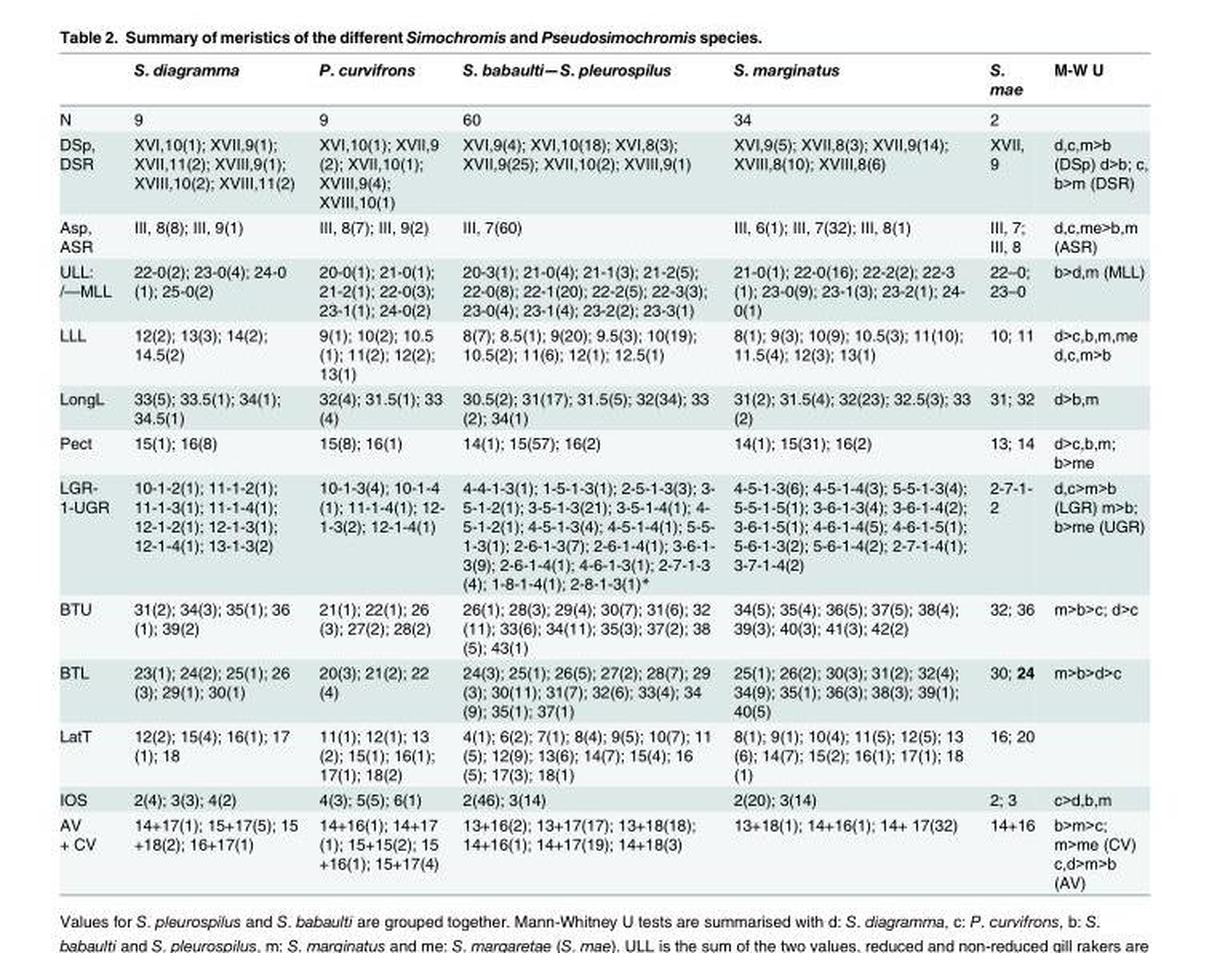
<table><thead><tr><td></td><td>S. diagramma</td><td>P. curvifrons</td><td>S. babaulti—S. pleurospilus</td><td>S. marginatus</td><td>S. mae</td><td>M-W U</td></tr></thead><tbody><tr><td>N</td><td>9</td><td>9</td><td>60</td><td>34</td><td>2</td><td></td></tr><tr><td>DSp, DSR</td><td>XVI,10(1); XVII,9(1); XVII,11(2); XVIII,9(1); XVIII,10(2); XVIII,11(2)</td><td>XVI,10(1); XVII,9 (2); XVII,10(1); XVIII,9(4); XVIII,10(1)</td><td>XVI,9(4); XVI,10(18); XVI,8(3); XVII,9(25); XVII,10(2); XVIII,9(1)</td><td>XVI,9(5); XVII,8(3); XVII,9(14); XVIII,8(10); XVIII,8(6)</td><td>XVII, 9</td><td>d,c,m&gt;b (DSp) d&gt;b; c, b&gt;m (DSR)</td></tr><tr><td>Asp, ASR</td><td>III, 8(8); III, 9(1)</td><td>III, 8(7); III, 9(2)</td><td>III, 7(60)</td><td>III, 6(1); III, 7(32); III, 8(1)</td><td>III, 7; III, 8</td><td>d,c,me&gt;b,m (ASR)</td></tr><tr><td>ULL: /—MLL</td><td>22-0(2); 23-0(4); 24-0 (1); 25-0(2)</td><td>20-0(1); 21-0(1); 21-2(1); 22-0(3); 23-1(1); 24-0(2)</td><td>20-3(1); 21-0(4); 21-1(3); 21-2(5); 22-0(8); 22-1(20); 22-2(5); 22-3(3); 23-0(4); 23-1(4); 23-2(2); 23-3(1)</td><td>21-0(1); 22-0(16); 22-2(2); 22-3 (1); 23-0(9); 23-1(3); 23-2(1); 24- 0(1)</td><td>22–0; 23–0</td><td>b&gt;d,m (MLL)</td></tr><tr><td>LLL</td><td>12(2); 13(3); 14(2); 14.5(2)</td><td>9(1); 10(2); 10.5 (1); 11(2); 12(2); 13(1)</td><td>8(7); 8.5(1); 9(20); 9.5(3); 10(19); 10.5(2); 11(6); 12(1); 12.5(1)</td><td>8(1); 9(3); 10(9); 10.5(3); 11(10); 11.5(4); 12(3); 13(1)</td><td>10; 11</td><td>d&gt;c,b,m,me d,c,m&gt;b</td></tr><tr><td>LongL</td><td>33(5); 33.5(1); 34(1); 34.5(1)</td><td>32(4); 31.5(1); 33 (4)</td><td>30.5(2); 31(17); 31.5(5); 32(34); 33 (2); 34(1)</td><td>31(2); 31.5(4); 32(23); 32.5(3); 33 (2)</td><td>31; 32</td><td>d&gt;b,m</td></tr><tr><td>Pect</td><td>15(1); 16(8)</td><td>15(8); 16(1)</td><td>14(1); 15(57); 16(2)</td><td>14(1); 15(31); 16(2)</td><td>13; 14</td><td>d&gt;c,b,m; b&gt;me</td></tr><tr><td>LGR- 1-UGR</td><td>10-1-2(1); 11-1-2(1); 11-1-3(1); 11-1-4(1); 12-1-2(1); 12-1-3(1); 12-1-4(1); 13-1-3(2)</td><td>10-1-3(4); 10-1-4 (1); 11-1-4(1); 12- 1-3(2); 12-1-4(1)</td><td>4-4-1-3(1); 1-5-1-3(1); 2-5-1-3(3); 3- 5-1-2(1); 3-5-1-3(21); 3-5-1-4(1); 4- 5-1-2(1); 4-5-1-3(4); 4-5-1-4(1); 5-5- 1-3(1); 2-6-1-3(7); 2-6-1-4(1); 3-6-1- 3(9); 2-6-1-4(1); 4-6-1-3(1); 2-7-1-3 (4); 1-8-1-4(1); 2-8-1-3(1)*</td><td>4-5-1-3(6); 4-5-1-4(3); 5-5-1-3(4); 5-5-1-5(1); 3-6-1-3(4); 3-6-1-4(2); 3-6-1-5(1); 4-6-1-4(5); 4-6-1-5(1); 5-6-1-3(2); 5-6-1-4(2); 2-7-1-4(1); 3-7-1-4(2)</td><td>2-7-1- 2</td><td>d,c&gt;m&gt;b (LGR) m&gt;b; b&gt;me (UGR)</td></tr><tr><td>BTU</td><td>31(2); 34(3); 35(1); 36 (1); 39(2)</td><td>21(1); 22(1); 26 (3); 27(2); 28(2)</td><td>26(1); 28(3); 29(4); 30(7); 31(6); 32 (11); 33(6); 34(11); 35(3); 37(2); 38 (5); 43(1)</td><td>34(5); 35(4); 36(5); 37(5); 38(4); 39(3); 40(3); 41(3); 42(2)</td><td>32; 36</td><td>m&gt;b&gt;c; d&gt;c</td></tr><tr><td>BTL</td><td>23(1); 24(2); 25(1); 26 (3); 29(1); 30(1)</td><td>20(3); 21(2); 22 (4)</td><td>24(3); 25(1); 26(5); 27(2); 28(7); 29 (3); 30(11); 31(7); 32(6); 33(4); 34 (9); 35(1); 37(1)</td><td>25(1); 26(2); 30(3); 31(2); 32(4); 34(9); 35(1); 36(3); 38(3); 39(1); 40(5)</td><td>30; 24</td><td>m&gt;b&gt;d&gt;c</td></tr><tr><td>LatT</td><td>12(2); 15(4); 16(1); 17 (1); 18</td><td>11(1); 12(1); 13 (2); 15(1); 16(1); 17(1); 18(2)</td><td>4(1); 6(2); 7(1); 8(4); 9(5); 10(7); 11 (5); 12(9); 13(6); 14(7); 15(4); 16 (5); 17(3); 18(1)</td><td>8(1); 9(1); 10(4); 11(5); 12(5); 13 (6); 14(7); 15(2); 16(1); 17(1); 18 (1)</td><td>16; 20</td><td></td></tr><tr><td>IOS</td><td>2(4); 3(3); 4(2)</td><td>4(3); 5(5); 6(1)</td><td>2(46); 3(14)</td><td>2(20); 3(14)</td><td>2; 3</td><td>c&gt;d,b,m</td></tr><tr><td>AV + CV</td><td>14+17(1); 15+17(5); 15 +18(2); 16+17(1)</td><td>14+16(1); 14+17 (1); 15+15(2); 15 +16(1); 15+17(4)</td><td>13+16(2); 13+17(17); 13+18(18); 14+16(1); 14+17(19); 14+18(3)</td><td>13+18(1); 14+16(1); 14+ 17(32)</td><td>14+16</td><td>b&gt;m&gt;c; m&gt;me (CV) c,d&gt;m&gt;b (AV)</td></tr></tbody></table>